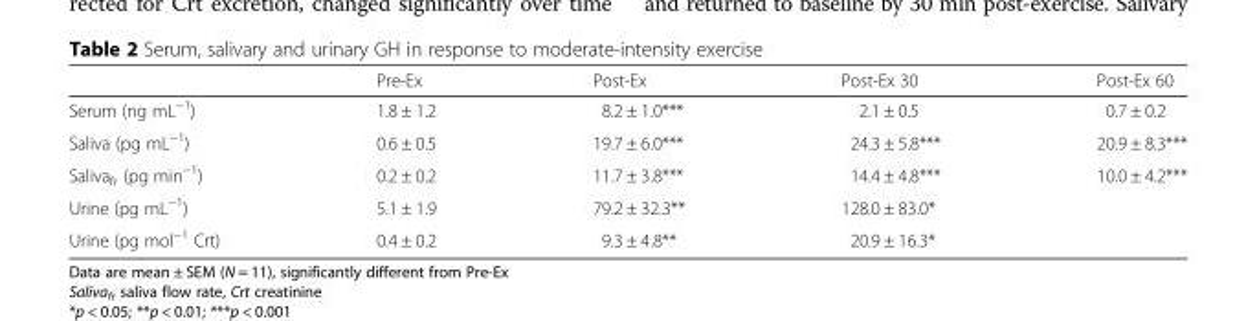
<table><thead><tr><td></td><td>Pre-Ex</td><td>Post-Ex</td><td>Post-Ex 30</td><td>Post-Ex 60</td></tr></thead><tbody><tr><td>Serum (ng mL−1)</td><td>1.8 ± 1.2</td><td>8.2 ± 1.0***</td><td>2.1 ± 0.5</td><td>0.7 ± 0.2</td></tr><tr><td>Saliva (pg mL−1)</td><td>0.6 ± 0.5</td><td>19.7 ± 6.0***</td><td>24.3 ± 5.8***</td><td>20.9 ± 8.3***</td></tr><tr><td>Salivafr (pg min−1)</td><td>0.2 ± 0.2</td><td>11.7 ± 3.8***</td><td>14.4 ± 4.8***</td><td>10.0 ± 4.2***</td></tr><tr><td>Urine (pg mL−1)</td><td>5.1 ± 1.9</td><td>79.2 ± 32.3**</td><td>128.0 ± 83.0*</td><td></td></tr><tr><td>Urine (pg mol−1 Crt)</td><td>0.4 ± 0.2</td><td>9.3 ± 4.8**</td><td>20.9 ± 16.3*</td><td></td></tr></tbody></table>